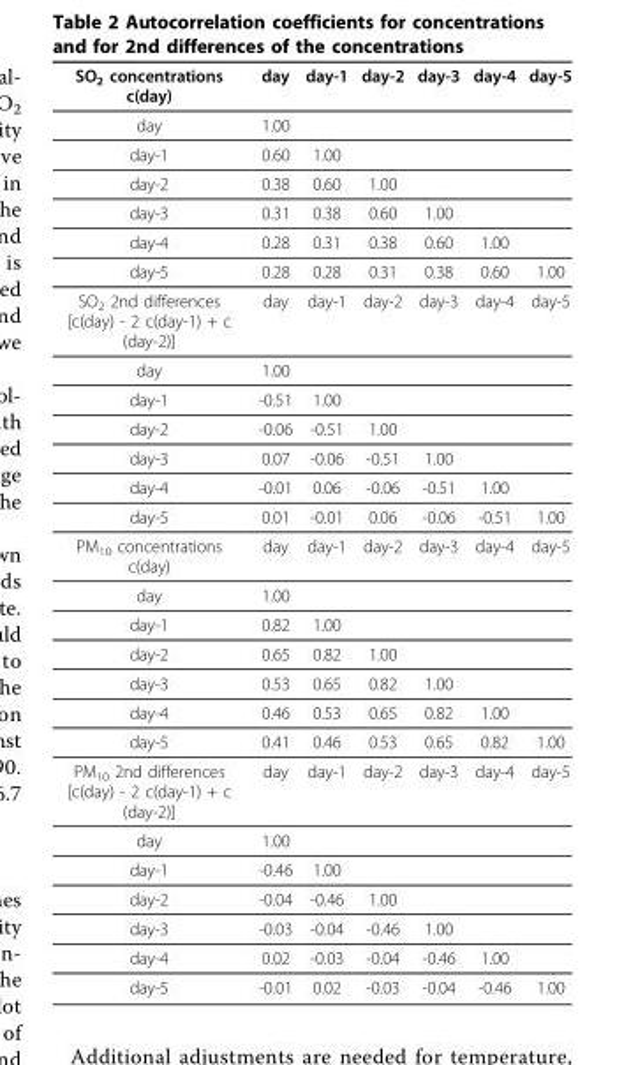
<table><thead><tr><td>SO<sub>2</sub> concentrations c(day)</td><td>day</td><td>day-1</td><td>day-2</td><td>day-3</td><td>day-4</td><td>day-5</td></tr></thead><tbody><tr><td>day</td><td>1.00</td><td></td><td></td><td></td><td></td><td></td></tr><tr><td>day-1</td><td>0.60</td><td>1.00</td><td></td><td></td><td></td><td></td></tr><tr><td>day-2</td><td>0.38</td><td>0.60</td><td>1.00</td><td></td><td></td><td></td></tr><tr><td>day-3</td><td>0.31</td><td>0.38</td><td>0.60</td><td>1.00</td><td></td><td></td></tr><tr><td>day-4</td><td>0.28</td><td>0.31</td><td>0.38</td><td>0.60</td><td>1.00</td><td></td></tr><tr><td>day-5</td><td>0.28</td><td>0.28</td><td>0.31</td><td>0.38</td><td>0.60</td><td>1.00</td></tr><tr><td>SO<sub>2</sub> 2nd differences [c(day) - 2 c(day-1) + c (day-2)]</td><td>day</td><td>day-1</td><td>day-2</td><td>day-3</td><td>day-4</td><td>day-5</td></tr><tr><td>day</td><td>1.00</td><td></td><td></td><td></td><td></td><td></td></tr><tr><td>day-1</td><td>-0.51</td><td>1.00</td><td></td><td></td><td></td><td></td></tr><tr><td>day-2</td><td>-0.06</td><td>-0.51</td><td>1.00</td><td></td><td></td><td></td></tr><tr><td>day-3</td><td>0.07</td><td>-0.06</td><td>-0.51</td><td>1.00</td><td></td><td></td></tr><tr><td>day-4</td><td>-0.01</td><td>0.06</td><td>-0.06</td><td>-0.51</td><td>1.00</td><td></td></tr><tr><td>day-5</td><td>0.01</td><td>-0.01</td><td>0.06</td><td>-0.06</td><td>-0.51</td><td>1.00</td></tr><tr><td>PM<sub>10</sub> concentrations c(day)</td><td>day</td><td>day-1</td><td>day-2</td><td>day-3</td><td>day-4</td><td>day-5</td></tr><tr><td>day</td><td>1.00</td><td></td><td></td><td></td><td></td><td></td></tr><tr><td>day-1</td><td>0.82</td><td>1.00</td><td></td><td></td><td></td><td></td></tr><tr><td>day-2</td><td>0.65</td><td>0.82</td><td>1.00</td><td></td><td></td><td></td></tr><tr><td>day-3</td><td>0.53</td><td>0.65</td><td>0.82</td><td>1.00</td><td></td><td></td></tr><tr><td>day-4</td><td>0.46</td><td>0.53</td><td>0.65</td><td>0.82</td><td>1.00</td><td></td></tr><tr><td>day-5</td><td>0.41</td><td>0.46</td><td>0.53</td><td>0.65</td><td>0.82</td><td>1.00</td></tr><tr><td>PM<sub>10</sub> 2nd differences [c(day) - 2 c(day-1) + c (day-2)]</td><td>day</td><td>day-1</td><td>day-2</td><td>day-3</td><td>day-4</td><td>day-5</td></tr><tr><td>day</td><td>1.00</td><td></td><td></td><td></td><td></td><td></td></tr><tr><td>day-1</td><td>-0.46</td><td>1.00</td><td></td><td></td><td></td><td></td></tr><tr><td>day-2</td><td>-0.04</td><td>-0.46</td><td>1.00</td><td></td><td></td><td></td></tr><tr><td>day-3</td><td>-0.03</td><td>-0.04</td><td>-0.46</td><td>1.00</td><td></td><td></td></tr><tr><td>day-4</td><td>0.02</td><td>-0.03</td><td>-0.04</td><td>-0.46</td><td>1.00</td><td></td></tr><tr><td>day-5</td><td>-0.01</td><td>0.02</td><td>-0.03</td><td>-0.04</td><td>-0.46</td><td>1.00</td></tr></tbody></table>